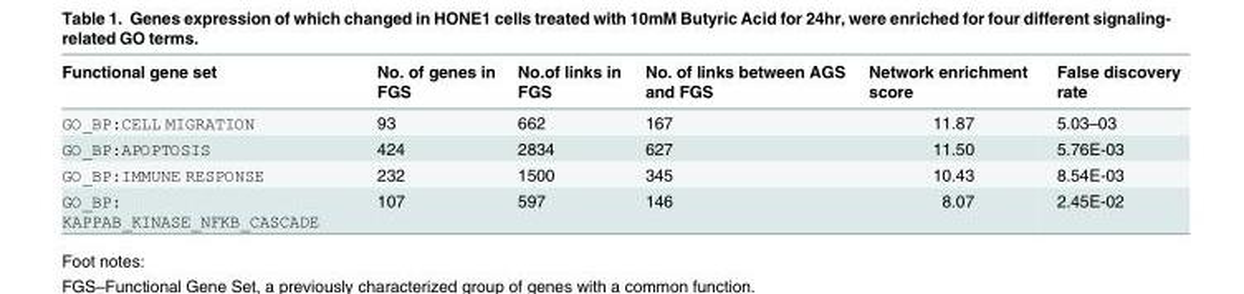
<table><thead><tr><td>Functional gene set</td><td>No. of genes in FGS</td><td>No.of links in FGS</td><td>No. of links between AGS and FGS</td><td>Network enrichment score</td><td>False discovery rate</td></tr></thead><tbody><tr><td>GO_BP:CELL MIGRATION</td><td>93</td><td>662</td><td>167</td><td>11.87</td><td>5.03–03</td></tr><tr><td>GO_BP:APOPTOSIS</td><td>424</td><td>2834</td><td>627</td><td>11.50</td><td>5.76E-03</td></tr><tr><td>GO_BP:IMMUNE RESPONSE</td><td>232</td><td>1500</td><td>345</td><td>10.43</td><td>8.54E-03</td></tr><tr><td>GO_BP: KAPPAB_KINASE_NFKB_CASCADE</td><td>107</td><td>597</td><td>146</td><td>8.07</td><td>2.45E-02</td></tr></tbody></table>